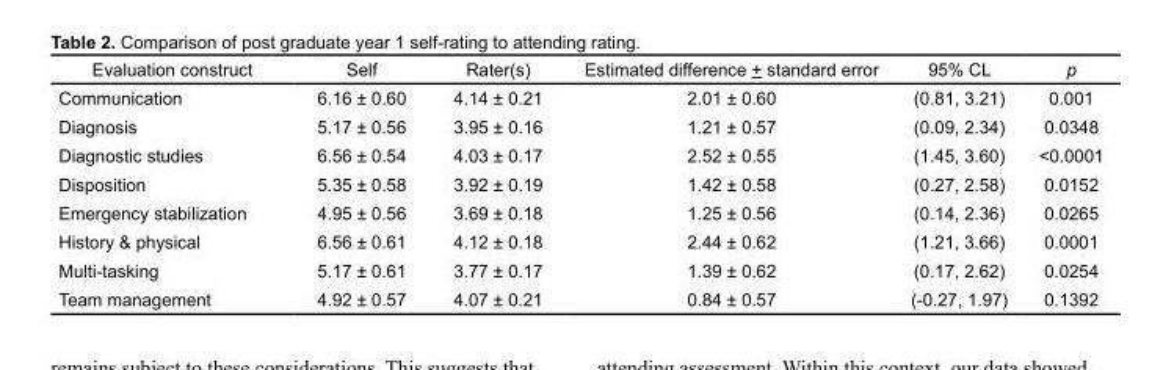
<table><thead><tr><td>Evaluation construct</td><td>Self</td><td>Rater(s)</td><td>Estimated difference + standard error</td><td>95% CL</td><td>p</td></tr></thead><tbody><tr><td>Communication</td><td>6.16 ± 0.60</td><td>4.14 ± 0.21</td><td>2.01 ± 0.60</td><td>(0.81, 3.21)</td><td>0.001</td></tr><tr><td>Diagnosis</td><td>5.17 ± 0.56</td><td>3.95 ± 0.16</td><td>1.21 ± 0.57</td><td>(0.09, 2.34)</td><td>0.0348</td></tr><tr><td>Diagnostic studies</td><td>6.56 ± 0.54</td><td>4.03 ± 0.17</td><td>2.52 ± 0.55</td><td>(1.45, 3.60)</td><td>&lt;0.0001</td></tr><tr><td>Disposition</td><td>5.35 ± 0.58</td><td>3.92 ± 0.19</td><td>1.42 ± 0.58</td><td>(0.27, 2.58)</td><td>0.0152</td></tr><tr><td>Emergency stabilization</td><td>4.95 ± 0.56</td><td>3.69 ± 0.18</td><td>1.25 ± 0.56</td><td>(0.14, 2.36)</td><td>0.0265</td></tr><tr><td>History &amp; physical</td><td>6.56 ± 0.61</td><td>4.12 ± 0.18</td><td>2.44 ± 0.62</td><td>(1.21, 3.66)</td><td>0.0001</td></tr><tr><td>Multi-tasking</td><td>5.17 ± 0.61</td><td>3.77 ± 0.17</td><td>1.39 ± 0.62</td><td>(0.17, 2.62)</td><td>0.0254</td></tr><tr><td>Team management</td><td>4.92 ± 0.57</td><td>4.07 ± 0.21</td><td>0.84 ± 0.57</td><td>(-0.27, 1.97)</td><td>0.1392</td></tr></tbody></table>